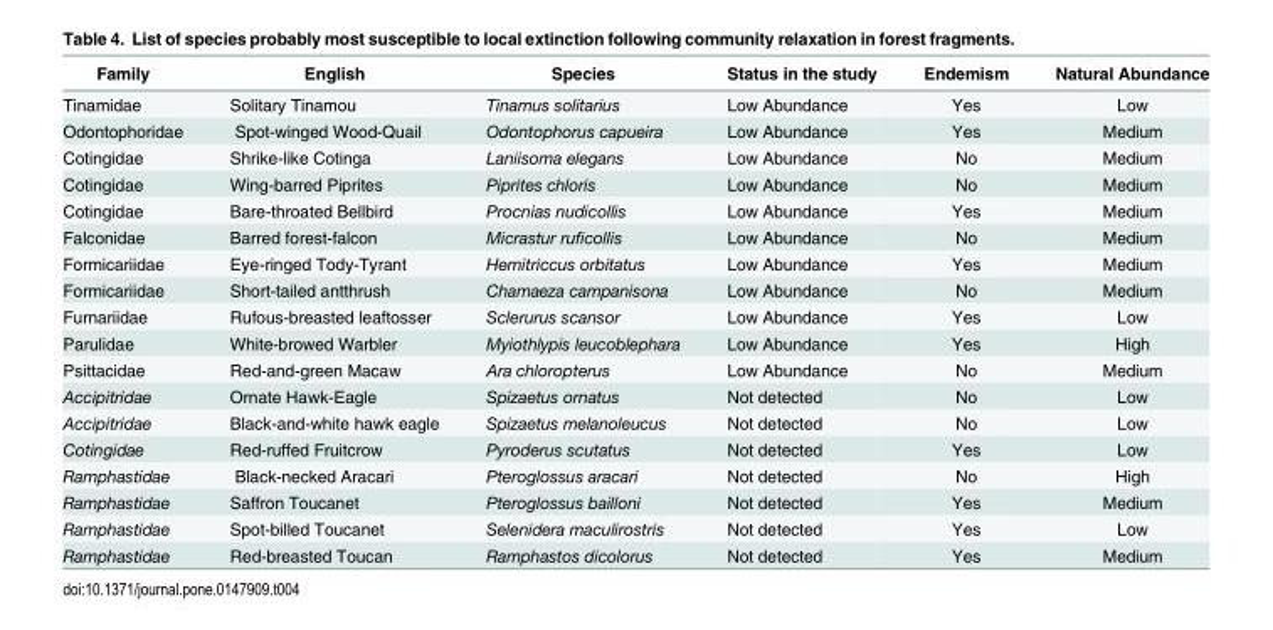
<table><thead><tr><td>Family</td><td>English</td><td>Species</td><td>Status in the study</td><td>Endemism</td><td>Natural Abundance</td></tr></thead><tbody><tr><td>Tinamidae</td><td>Solitary Tinamou</td><td>Tinamus solitarius</td><td>Low Abundance</td><td>Yes</td><td>Low</td></tr><tr><td>Odontophoridae</td><td>Spot-winged Wood-Quail</td><td>Odontophorus capueira</td><td>Low Abundance</td><td>Yes</td><td>Medium</td></tr><tr><td>Cotingidae</td><td>Shrike-like Cotinga</td><td>Laniisoma elegans</td><td>Low Abundance</td><td>No</td><td>Medium</td></tr><tr><td>Cotingidae</td><td>Wing-barred Piprites</td><td>Piprites chloris</td><td>Low Abundance</td><td>No</td><td>Medium</td></tr><tr><td>Cotingidae</td><td>Bare-throated Bellbird</td><td>Procnias nudicollis</td><td>Low Abundance</td><td>Yes</td><td>Medium</td></tr><tr><td>Falconidae</td><td>Barred forest-falcon</td><td>Micrastur ruficollis</td><td>Low Abundance</td><td>No</td><td>Medium</td></tr><tr><td>Formicariidae</td><td>Eye-ringed Tody-Tyrant</td><td>Hemitriccus orbitatus</td><td>Low Abundance</td><td>Yes</td><td>Medium</td></tr><tr><td>Formicariidae</td><td>Short-tailed antthrush</td><td>Chamaeza campanisona</td><td>Low Abundance</td><td>No</td><td>Medium</td></tr><tr><td>Furnariidae</td><td>Rufous-breasted leaftosser</td><td>Sclerurus scansor</td><td>Low Abundance</td><td>Yes</td><td>Low</td></tr><tr><td>Parulidae</td><td>White-browed Warbler</td><td>Myiothlypis leucoblephara</td><td>Low Abundance</td><td>Yes</td><td>High</td></tr><tr><td>Psittacidae</td><td>Red-and-green Macaw</td><td>Ara chloropterus</td><td>Low Abundance</td><td>No</td><td>Medium</td></tr><tr><td>Accipitridae</td><td>Ornate Hawk-Eagle</td><td>Spizaetus ornatus</td><td>Not detected</td><td>No</td><td>Low</td></tr><tr><td>Accipitridae</td><td>Black-and-white hawk eagle</td><td>Spizaetus melanoleucus</td><td>Not detected</td><td>No</td><td>Low</td></tr><tr><td>Cotingidae</td><td>Red-ruffed Fruitcrow</td><td>Pyroderus scutatus</td><td>Not detected</td><td>Yes</td><td>Low</td></tr><tr><td>Ramphastidae</td><td>Black-necked Aracari</td><td>Pteroglossus aracari</td><td>Not detected</td><td>No</td><td>High</td></tr><tr><td>Ramphastidae</td><td>Saffron Toucanet</td><td>Pteroglossus bailloni</td><td>Not detected</td><td>Yes</td><td>Medium</td></tr><tr><td>Ramphastidae</td><td>Spot-billed Toucanet</td><td>Selenidera maculirostris</td><td>Not detected</td><td>Yes</td><td>Low</td></tr><tr><td>Ramphastidae</td><td>Red-breasted Toucan</td><td>Ramphastos dicolorus</td><td>Not detected</td><td>Yes</td><td>Medium</td></tr></tbody></table>